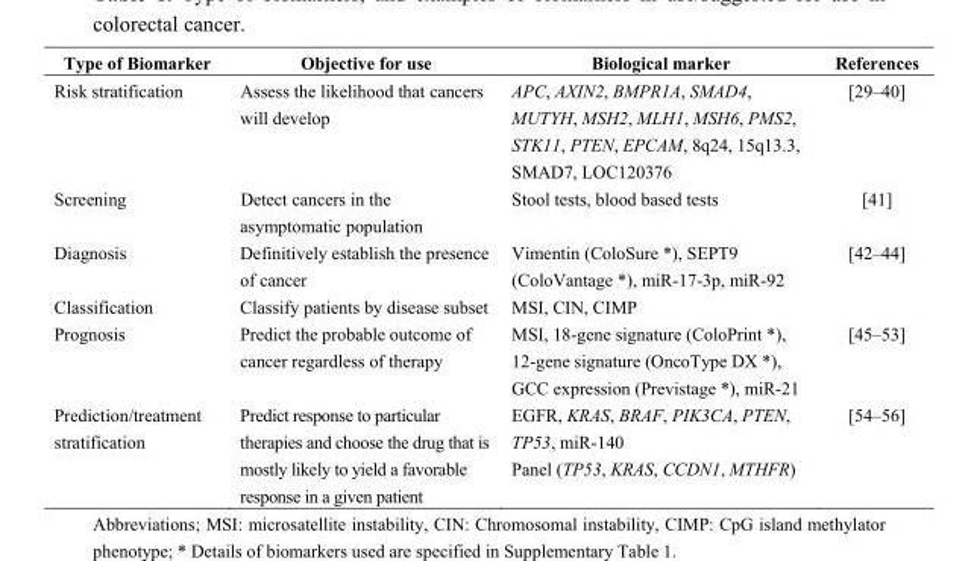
<table><thead><tr><td>Type of Biomarker</td><td>Objective for use</td><td>Biological marker</td><td>References</td></tr></thead><tbody><tr><td>Risk stratification</td><td>Assess the likelihood that cancers will develop</td><td>APC, AXIN2, BMPR1A, SMAD4, MUTYH, MSH2, MLH1, MSH6, PMS2, STK11, PTEN, EPCAM, 8q24, 15q13.3, SMAD7, LOC120376</td><td>[29–40]</td></tr><tr><td>Screening</td><td>Detect cancers in the asymptomatic population</td><td>Stool tests, blood based tests</td><td>[41]</td></tr><tr><td>Diagnosis</td><td>Definitively establish the presence of cancer</td><td>Vimentin (ColoSure *), SEPT9 (ColoVantage *), miR-17-3p, miR-92</td><td>[42–44]</td></tr><tr><td>Classification</td><td>Classify patients by disease subset</td><td>MSI, CIN, CIMP</td><td></td></tr><tr><td>Prognosis</td><td>Predict the probable outcome of cancer regardless of therapy</td><td>MSI, 18-gene signature (ColoPrint *), 12-gene signature (OncoType DX *), GCC expression (Previstage *), miR-21</td><td>[45–53]</td></tr><tr><td>Prediction/treatment stratification</td><td>Predict response to particular therapies and choose the drug that is mostly likely to yield a favorable response in a given patient</td><td>EGFR, KRAS, BRAF, PIK3CA, PTEN, TP53, miR-140 Panel (TP53, KRAS, CCDN1, MTHFR)</td><td>[54–56]</td></tr></tbody></table>